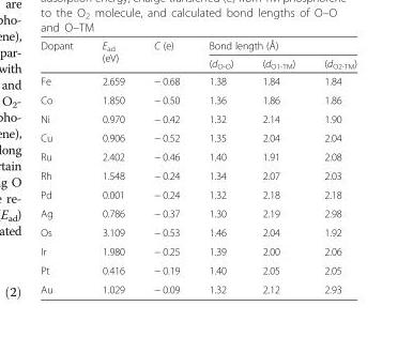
<table><thead><tr><td rowspan="2">Dopant</td><td rowspan="2">E<sub>ad</sub> (eV)</td><td rowspan="2">C (e)</td><td colspan="3">Bond length (Å)</td></tr><tr><td>(d<sub>O-O</sub>)</td><td>(d<sub>O1-TM</sub>)</td><td>(d<sub>O2-TM</sub>)</td></tr></thead><tbody><tr><td>Fe</td><td>2.659</td><td>− 0.68</td><td>1.38</td><td>1.84</td><td>1.84</td></tr><tr><td>Co</td><td>1.850</td><td>− 0.50</td><td>1.36</td><td>1.86</td><td>1.86</td></tr><tr><td>Ni</td><td>0.970</td><td>− 0.42</td><td>1.32</td><td>2.14</td><td>1.90</td></tr><tr><td>Cu</td><td>0.906</td><td>− 0.52</td><td>1.35</td><td>2.04</td><td>2.04</td></tr><tr><td>Ru</td><td>2.402</td><td>− 0.46</td><td>1.40</td><td>1.91</td><td>2.08</td></tr><tr><td>Rh</td><td>1.548</td><td>− 0.24</td><td>1.34</td><td>2.07</td><td>2.03</td></tr><tr><td>Pd</td><td>0.001</td><td>− 0.24</td><td>1.32</td><td>2.18</td><td>2.18</td></tr><tr><td>Ag</td><td>0.786</td><td>− 0.37</td><td>1.30</td><td>2.19</td><td>2.98</td></tr><tr><td>Os</td><td>3.109</td><td>− 0.53</td><td>1.46</td><td>2.04</td><td>1.92</td></tr><tr><td>Ir</td><td>1.980</td><td>− 0.25</td><td>1.39</td><td>2.00</td><td>2.06</td></tr><tr><td>Pt</td><td>0.416</td><td>− 0.19</td><td>1.40</td><td>2.05</td><td>2.05</td></tr><tr><td>Au</td><td>1.029</td><td>− 0.09</td><td>1.32</td><td>2.12</td><td>2.93</td></tr></tbody></table>